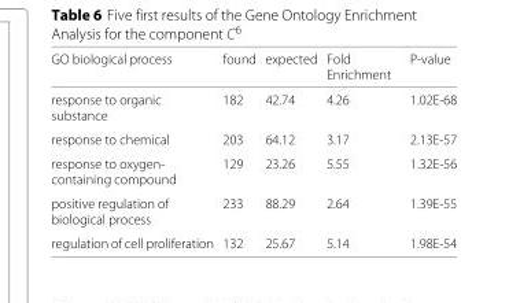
<table><thead><tr><td>GO biological process</td><td>found</td><td>expected</td><td>Fold Enrichment</td><td>P-value</td></tr></thead><tbody><tr><td>response to organic substance</td><td>182</td><td>42.74</td><td>4.26</td><td>1.02E-68</td></tr><tr><td>response to chemical</td><td>203</td><td>64.12</td><td>3.17</td><td>2.13E-57</td></tr><tr><td>response to oxygen- containing compound</td><td>129</td><td>23.26</td><td>5.55</td><td>1.32E-56</td></tr><tr><td>positive regulation of biological process</td><td>233</td><td>88.29</td><td>2.64</td><td>1.39E-55</td></tr><tr><td>regulation of cell proliferation</td><td>132</td><td>25.67</td><td>5.14</td><td>1.98E-54</td></tr></tbody></table>